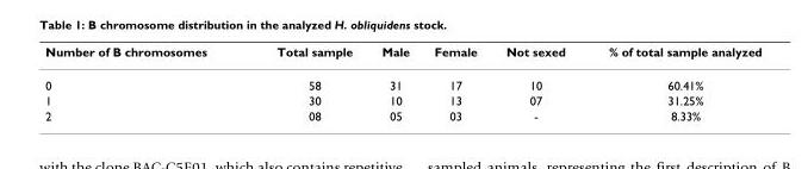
<table><thead><tr><td>Number of B chromosomes</td><td>Total sample</td><td>Male</td><td>Female</td><td>Not sexed</td><td>% of total sample analyzed</td></tr></thead><tbody><tr><td>0</td><td>58</td><td>31</td><td>17</td><td>10</td><td>60.41%</td></tr><tr><td>1</td><td>30</td><td>10</td><td>13</td><td>07</td><td>31.25%</td></tr><tr><td>2</td><td>08</td><td>05</td><td>03</td><td>-</td><td>8.33%</td></tr></tbody></table>